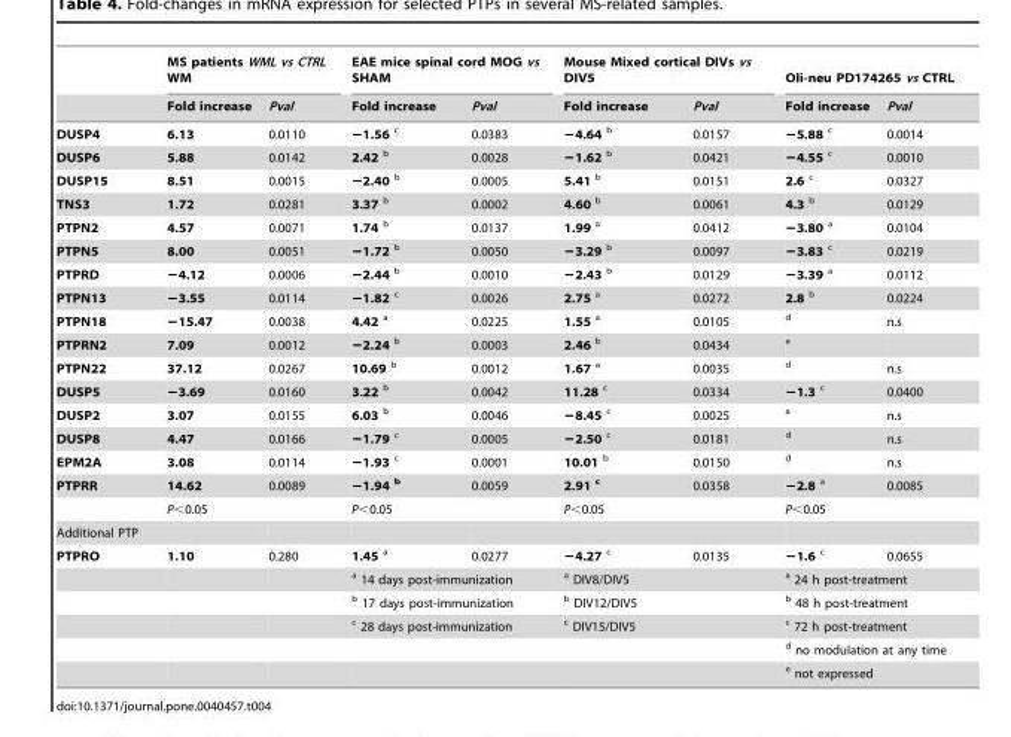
<table><thead><tr><td rowspan="2"></td><td colspan="2">MS patients WML vs CTRL WM</td><td colspan="2">EAE mice spinal cord MOG vs SHAM</td><td colspan="2">Mouse Mixed cortical DIVs vs DIV5</td><td colspan="2">Oli-neu PD174265 vs CTRL</td></tr><tr><td>Fold increase</td><td>Pval</td><td>Fold increase</td><td>Pval</td><td>Fold increase</td><td>Pval</td><td>Fold increase</td><td>Pval</td></tr></thead><tbody><tr><td>DUSP4</td><td>6.13</td><td>0.0110</td><td>−1.56 <sup>c</sup></td><td>0.0383</td><td>−4.64 <sup>b</sup></td><td>0.0157</td><td>−5.88 <sup>c</sup></td><td>0.0014</td></tr><tr><td>DUSP6</td><td>5.88</td><td>0.0142</td><td>2.42 <sup>b</sup></td><td>0.0028</td><td>−1.62 <sup>b</sup></td><td>0.0421</td><td>−4.55 <sup>c</sup></td><td>0.0010</td></tr><tr><td>DUSP15</td><td>8.51</td><td>0.0015</td><td>−2.40 <sup>b</sup></td><td>0.0005</td><td>5.41 <sup>b</sup></td><td>0.0151</td><td>2.6 <sup>c</sup></td><td>0.0327</td></tr><tr><td>TNS3</td><td>1.72</td><td>0.0281</td><td>3.37 <sup>b</sup></td><td>0.0002</td><td>4.60 <sup>b</sup></td><td>0.0061</td><td>4.3 <sup>b</sup></td><td>0.0129</td></tr><tr><td>PTPN2</td><td>4.57</td><td>0.0071</td><td>1.74 <sup>b</sup></td><td>0.0137</td><td>1.99 <sup>a</sup></td><td>0.0412</td><td>−3.80 <sup>a</sup></td><td>0.0104</td></tr><tr><td>PTPN5</td><td>8.00</td><td>0.0051</td><td>−1.72 <sup>b</sup></td><td>0.0050</td><td>−3.29 <sup>b</sup></td><td>0.0097</td><td>−3.83 <sup>c</sup></td><td>0.0219</td></tr><tr><td>PTPRD</td><td>−4.12</td><td>0.0006</td><td>−2.44 <sup>b</sup></td><td>0.0010</td><td>−2.43 <sup>b</sup></td><td>0.0129</td><td>−3.39 <sup>a</sup></td><td>0.0112</td></tr><tr><td>PTPN13</td><td>−3.55</td><td>0.0114</td><td>−1.82 <sup>c</sup></td><td>0.0026</td><td>2.75 <sup>a</sup></td><td>0.0272</td><td>2.8 <sup>b</sup></td><td>0.0224</td></tr><tr><td>PTPN18</td><td>−15.47</td><td>0.0038</td><td>4.42 <sup>a</sup></td><td>0.0225</td><td>1.55 <sup>a</sup></td><td>0.0105</td><td><sup>d</sup></td><td>n.s</td></tr><tr><td>PTPRN2</td><td>7.09</td><td>0.0012</td><td>−2.24 <sup>b</sup></td><td>0.0003</td><td>2.46 <sup>b</sup></td><td>0.0434</td><td><sup>e</sup></td><td></td></tr><tr><td>PTPN22</td><td>37.12</td><td>0.0267</td><td>10.69 <sup>b</sup></td><td>0.0012</td><td>1.67 <sup>a</sup></td><td>0.0035</td><td><sup>d</sup></td><td>n.s</td></tr><tr><td>DUSP5</td><td>−3.69</td><td>0.0160</td><td>3.22 <sup>b</sup></td><td>0.0042</td><td>11.28 <sup>c</sup></td><td>0.0334</td><td>−1.3 <sup>c</sup></td><td>0.0400</td></tr><tr><td>DUSP2</td><td>3.07</td><td>0.0155</td><td>6.03 <sup>b</sup></td><td>0.0046</td><td>−8.45 <sup>c</sup></td><td>0.0025</td><td><sup>a</sup></td><td>n.s</td></tr><tr><td>DUSP8</td><td>4.47</td><td>0.0166</td><td>−1.79 <sup>c</sup></td><td>0.0005</td><td>−2.50 <sup>c</sup></td><td>0.0181</td><td><sup>d</sup></td><td>n.s</td></tr><tr><td>EPM2A</td><td>3.08</td><td>0.0114</td><td>−1.93 <sup>c</sup></td><td>0.0001</td><td>10.01 <sup>b</sup></td><td>0.0150</td><td><sup>d</sup></td><td>n.s</td></tr><tr><td rowspan="2">PTPRR</td><td>14.62</td><td>0.0089</td><td>−1.94 <sup>b</sup></td><td>0.0059</td><td>2.91 <sup>c</sup></td><td>0.0358</td><td>−2.8 <sup>a</sup></td><td>0.0085</td></tr><tr><td colspan="2">P&lt;0.05</td><td colspan="2">P&lt;0.05</td><td colspan="2">P&lt;0.05</td><td colspan="2">P&lt;0.05</td></tr><tr><td colspan="9">Additional PTP</td></tr><tr><td rowspan="6">PTPRO</td><td>1.10</td><td>0.280</td><td>1.45 <sup>a</sup></td><td>0.0277</td><td>−4.27 <sup>c</sup></td><td>0.0135</td><td>−1.6 <sup>c</sup></td><td>0.0655</td></tr><tr><td></td><td></td><td colspan="2"><sup>a</sup> 14 days post-immunization</td><td colspan="2"><sup>a</sup> DIV8/DIV5</td><td colspan="2"><sup>a</sup> 24 h post-treatment</td></tr><tr><td></td><td></td><td colspan="2"><sup>b</sup> 17 days post-immunization</td><td colspan="2"><sup>b</sup> DIV12/DIV5</td><td colspan="2"><sup>b</sup> 48 h post-treatment</td></tr><tr><td></td><td></td><td colspan="2"><sup>c</sup> 28 days post-immunization</td><td colspan="2"><sup>c</sup> DIV15/DIV5</td><td colspan="2"><sup>c</sup> 72 h post-treatment</td></tr><tr><td></td><td></td><td colspan="2"></td><td colspan="2"></td><td colspan="2"><sup>d</sup> no modulation at any time</td></tr><tr><td></td><td></td><td colspan="2"></td><td colspan="2"></td><td colspan="2"><sup>e</sup> not expressed</td></tr></tbody></table>